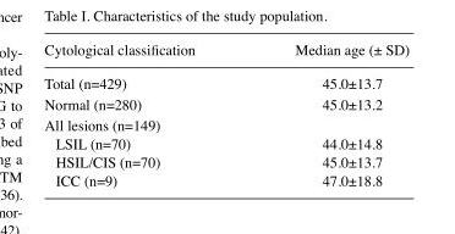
<table><thead><tr><td>Cytological classification</td><td>Median age (± SD)</td></tr></thead><tbody><tr><td>Total (n=429)</td><td>45.0±13.7</td></tr><tr><td>Normal (n=280)</td><td>45.0±13.2</td></tr><tr><td colspan="2">All lesions (n=149)</td></tr><tr><td>LSIL (n=70)</td><td>44.0±14.8</td></tr><tr><td>HSIL/CIS (n=70)</td><td>45.0±13.7</td></tr><tr><td>ICC (n=9)</td><td>47.0±18.8</td></tr></tbody></table>